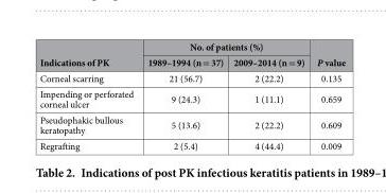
<table><thead><tr><td rowspan="2">Indications of PK</td><td colspan="2">No. of patients (%)</td><td rowspan="2">P value</td></tr><tr><td>1989–1994 (n = 37)</td><td>2009–2014 (n = 9)</td></tr></thead><tbody><tr><td>Corneal scarring</td><td>21 (56.7)</td><td>2 (22.2)</td><td>0.135</td></tr><tr><td>Impending or perforated corneal ulcer</td><td>9 (24.3)</td><td>1 (11.1)</td><td>0.659</td></tr><tr><td>Pseudophakic bullous keratopathy</td><td>5 (13.6)</td><td>2 (22.2)</td><td>0.609</td></tr><tr><td>Regrafting</td><td>2 (5.4)</td><td>4 (44.4)</td><td>0.009</td></tr></tbody></table>